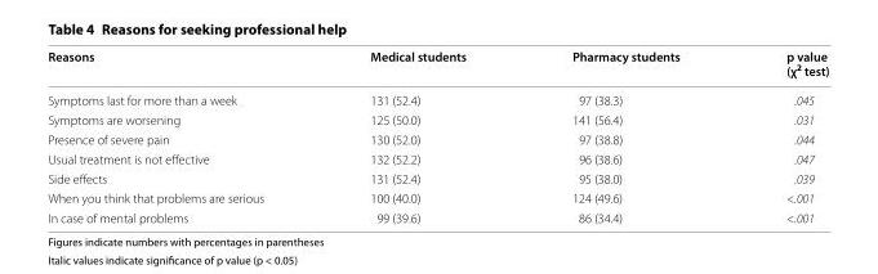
<table><thead><tr><td>Reasons</td><td>Medical students</td><td>Pharmacy students</td><td>p value (χ<sup>2</sup> test)</td></tr></thead><tbody><tr><td>Symptoms last for more than a week</td><td>131 (52.4)</td><td>97 (38.3)</td><td>.045</td></tr><tr><td>Symptoms are worsening</td><td>125 (50.0)</td><td>141 (56.4)</td><td>.031</td></tr><tr><td>Presence of severe pain</td><td>130 (52.0)</td><td>97 (38.8)</td><td>.044</td></tr><tr><td>Usual treatment is not effective</td><td>132 (52.2)</td><td>96 (38.6)</td><td>.047</td></tr><tr><td>Side effects</td><td>131 (52.4)</td><td>95 (38.0)</td><td>.039</td></tr><tr><td>When you think that problems are serious</td><td>100 (40.0)</td><td>124 (49.6)</td><td>&lt;.001</td></tr><tr><td>In case of mental problems</td><td>99 (39.6)</td><td>86 (34.4)</td><td>&lt;.001</td></tr></tbody></table>